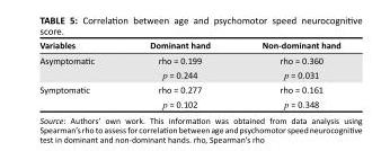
<table><thead><tr><td>Variables</td><td>Dominant hand</td><td>Non-dominant hand</td></tr></thead><tbody><tr><td rowspan="2">Asymptomatic</td><td>rho = 0.199</td><td>rho = 0.360</td></tr><tr><td>p = 0.244</td><td>p = 0.031</td></tr><tr><td rowspan="2">Symptomatic</td><td>rho = 0.277</td><td>rho = 0.161</td></tr><tr><td>p = 0.102</td><td>p = 0.348</td></tr></tbody></table>